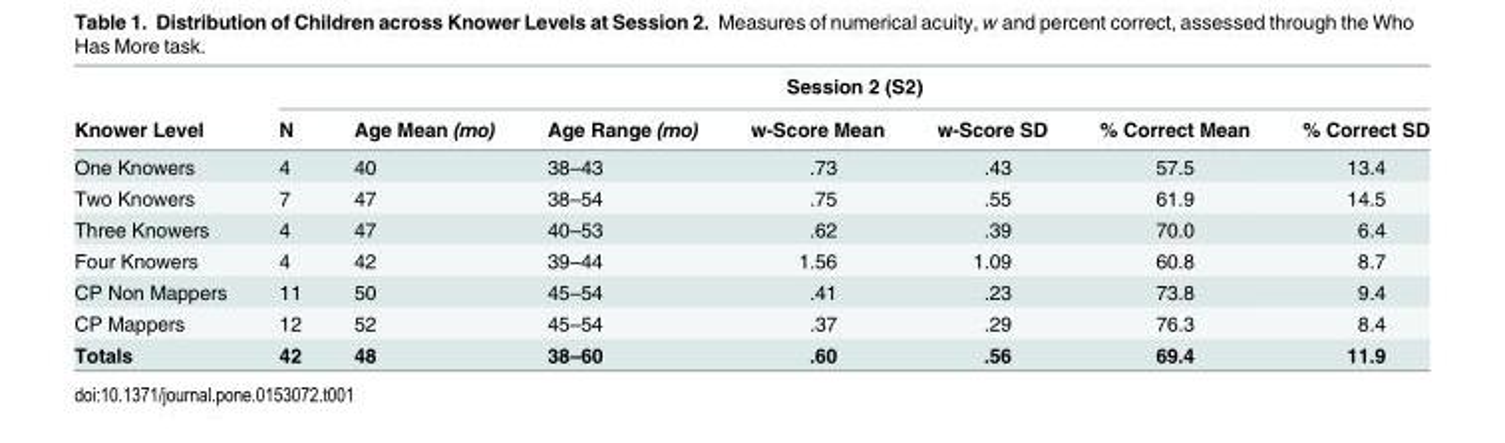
<table><thead><tr><td rowspan="2">Knower Level</td><td colspan="7">Session 2 (S2)</td></tr><tr><td>N</td><td>Age Mean (mo)</td><td>Age Range (mo)</td><td>w-Score Mean</td><td>w-Score SD</td><td>% Correct Mean</td><td>% Correct SD</td></tr></thead><tbody><tr><td>One Knowers</td><td>4</td><td>40</td><td>38–43</td><td>.73</td><td>.43</td><td>57.5</td><td>13.4</td></tr><tr><td>Two Knowers</td><td>7</td><td>47</td><td>38–54</td><td>.75</td><td>.55</td><td>61.9</td><td>14.5</td></tr><tr><td>Three Knowers</td><td>4</td><td>47</td><td>40–53</td><td>.62</td><td>.39</td><td>70.0</td><td>6.4</td></tr><tr><td>Four Knowers</td><td>4</td><td>42</td><td>39–44</td><td>1.56</td><td>1.09</td><td>60.8</td><td>8.7</td></tr><tr><td>CP Non Mappers</td><td>11</td><td>50</td><td>45–54</td><td>.41</td><td>.23</td><td>73.8</td><td>9.4</td></tr><tr><td>CP Mappers</td><td>12</td><td>52</td><td>45–54</td><td>.37</td><td>.29</td><td>76.3</td><td>8.4</td></tr><tr><td>Totals</td><td>42</td><td>48</td><td>38–60</td><td>.60</td><td>.56</td><td>69.4</td><td>11.9</td></tr></tbody></table>